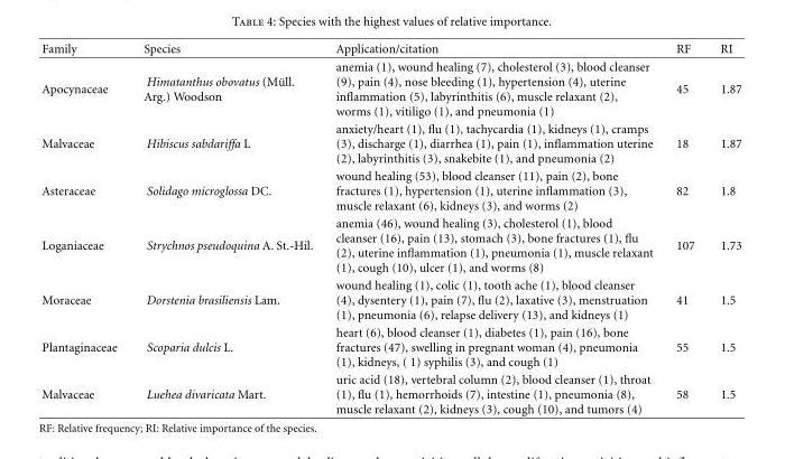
<table><thead><tr><td>Family</td><td>Species</td><td>Application/citation</td><td>RF</td><td>RI</td></tr></thead><tbody><tr><td>Apocynaceae</td><td>Himatanthus obovatus (M¨ull. Arg.) Woodson</td><td>anemia (1), wound healing (7), cholesterol (3), blood cleanser (9), pain (4), nose bleeding (1), hypertension (4), uterine inflammation (5), labyrinthitis (6), muscle relaxant (2), worms (1), vitiligo (1), and pneumonia (1)</td><td>45</td><td>1.87</td></tr><tr><td>Malvaceae</td><td>Hibiscus sabdariffa L</td><td>anxiety/heart (1), flu (1), tachycardia (1), kidneys (1), cramps (3), discharge (1), diarrhea (1), pain (1), inflammation uterine (2), labyrinthitis (3), snakebite (1), and pneumonia (2)</td><td>18</td><td>1.87</td></tr><tr><td>Asteraceae</td><td>Solidago microglossa DC.</td><td>wound healing (53), blood cleanser (11), pain (2), bone fractures (1), hypertension (1), uterine inflammation (3), muscle relaxant (6), kidneys (3), and worms (2)</td><td>82</td><td>1.8</td></tr><tr><td>Loganiaceae</td><td>Strychnos pseudoquina A. St.-Hil.</td><td>anemia (46), wound healing (3), cholesterol (1), blood cleanser (16), pain (13), stomach (3), bone fractures (1), flu (2), uterine inflammation (1), pneumonia (1), muscle relaxant (1), cough (10), ulcer (1), and worms (8)</td><td>107</td><td>1.73</td></tr><tr><td>Moraceae</td><td>Dorstenia brasiliensis Lam.</td><td>wound healing (1), colic (1), tooth ache (1), blood cleanser (4), dysentery (1), pain (7), flu (2), laxative (3), menstruation (1), pneumonia (6), relapse delivery (13), and kidneys (1)</td><td>41</td><td>1.5</td></tr><tr><td>Plantaginaceae</td><td>Scoparia dulcis L.</td><td>heart (6), blood cleanser (1), diabetes (1), pain (16), bone fractures (47), swelling in pregnant woman (4), pneumonia (1), kidneys, ( 1) syphilis (3), and cough (1)</td><td>55</td><td>1.5</td></tr><tr><td>Malvaceae</td><td>Luehea divaricata Mart.</td><td>uric acid (18), vertebral column (2), blood cleanser (1), throat (1), flu (1), hemorrhoids (7), intestine (1), pneumonia (8), muscle relaxant (2), kidneys (3), cough (10), and tumors (4)</td><td>58</td><td>1.5</td></tr></tbody></table>